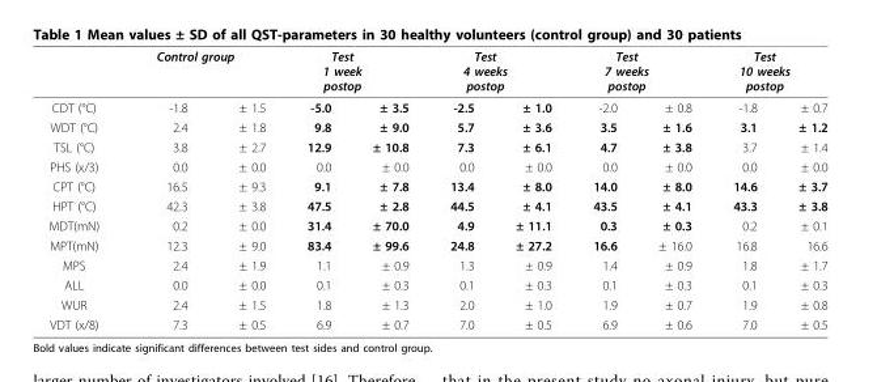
<table><thead><tr><td rowspan="2">CDT (°C)</td><td colspan="2">Control group</td><td colspan="2">Test 1 week postop</td><td colspan="2">Test 4 weeks postop</td><td colspan="2">Test 7 weeks postop</td><td colspan="2">Test 10 weeks postop</td></tr><tr><td>-1.8</td><td>± 1.5</td><td>-5.0</td><td>± 3.5</td><td>-2.5</td><td>± 1.0</td><td>-2.0</td><td>± 0.8</td><td>-1.8</td><td>± 0.7</td></tr></thead><tbody><tr><td>WDT (°C)</td><td>2.4</td><td>± 1.8</td><td>9.8</td><td>± 9.0</td><td>5.7</td><td>± 3.6</td><td>3.5</td><td>± 1.6</td><td>3.1</td><td>± 1.2</td></tr><tr><td>TSL (°C)</td><td>3.8</td><td>± 2.7</td><td>12.9</td><td>± 10.8</td><td>7.3</td><td>± 6.1</td><td>4.7</td><td>± 3.8</td><td>3.7</td><td>± 1.4</td></tr><tr><td>PHS (x/3)</td><td>0.0</td><td>± 0.0</td><td>0.0</td><td>± 0.0</td><td>0.0</td><td>± 0.0</td><td>0.0</td><td>± 0.0</td><td>0.0</td><td>± 0.0</td></tr><tr><td>CPT (°C)</td><td>16.5</td><td>± 9.3</td><td>9.1</td><td>± 7.8</td><td>13.4</td><td>± 8.0</td><td>14.0</td><td>± 8.0</td><td>14.6</td><td>± 3.7</td></tr><tr><td>HPT (°C)</td><td>42.3</td><td>± 3.8</td><td>47.5</td><td>± 2.8</td><td>44.5</td><td>± 4.1</td><td>43.5</td><td>± 4.1</td><td>43.3</td><td>± 3.8</td></tr><tr><td>MDT(mN)</td><td>0.2</td><td>± 0.0</td><td>31.4</td><td>± 70.0</td><td>4.9</td><td>± 11.1</td><td>0.3</td><td>± 0.3</td><td>0.2</td><td>± 0.1</td></tr><tr><td>MPT(mN)</td><td>12.3</td><td>± 9.0</td><td>83.4</td><td>± 99.6</td><td>24.8</td><td>± 27.2</td><td>16.6</td><td>± 16.0</td><td>16.8</td><td>16.6</td></tr><tr><td>MPS</td><td>2.4</td><td>± 1.9</td><td>1.1</td><td>± 0.9</td><td>1.3</td><td>± 0.9</td><td>1.4</td><td>± 0.9</td><td>1.8</td><td>± 1.7</td></tr><tr><td>ALL</td><td>0.0</td><td>± 0.0</td><td>0.1</td><td>± 0.3</td><td>0.1</td><td>± 0.3</td><td>0.1</td><td>± 0.3</td><td>0.1</td><td>± 0.3</td></tr><tr><td>WUR</td><td>2.4</td><td>± 1.5</td><td>1.8</td><td>± 1.3</td><td>2.0</td><td>± 1.0</td><td>1.9</td><td>± 0.7</td><td>1.9</td><td>± 0.8</td></tr><tr><td>VDT (x/8)</td><td>7.3</td><td>± 0.5</td><td>6.9</td><td>± 0.7</td><td>7.0</td><td>± 0.5</td><td>6.9</td><td>± 0.6</td><td>7.0</td><td>± 0.5</td></tr></tbody></table>